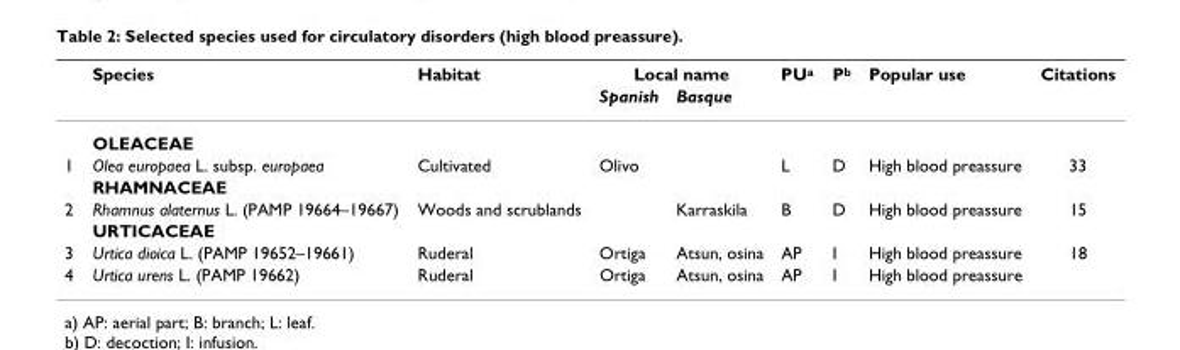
<table><thead><tr><td rowspan="2"></td><td rowspan="2">Species</td><td rowspan="2">Habitat</td><td colspan="2">Local name</td><td rowspan="2">PU<sup>a</sup></td><td rowspan="2">P<sup>b</sup></td><td rowspan="2">Popular use</td><td rowspan="2">Citations</td></tr><tr><td>Spanish</td><td>Basque</td></tr></thead><tbody><tr><td></td><td>OLEACEAE</td><td></td><td></td><td></td><td></td><td></td><td></td><td></td></tr><tr><td rowspan="2">1</td><td>Olea europaea L. subsp. europaea</td><td>Cultivated</td><td>Olivo</td><td></td><td>L</td><td>D</td><td>High blood preassure</td><td>33</td></tr><tr><td>RHAMNACEAE</td><td></td><td></td><td></td><td></td><td></td><td></td><td></td></tr><tr><td rowspan="2">2</td><td>Rhamnus alaternus L. (PAMP 19664–19667)</td><td>Woods and scrublands</td><td></td><td>Karraskila</td><td>B</td><td>D</td><td>High blood preassure</td><td>15</td></tr><tr><td>URTICACEAE</td><td></td><td></td><td></td><td></td><td></td><td></td><td></td></tr><tr><td>3</td><td>Urtica dioica L. (PAMP 19652–19661)</td><td>Ruderal</td><td>Ortiga</td><td>Atsun, osina</td><td>AP</td><td>I</td><td>High blood preassure</td><td>18</td></tr><tr><td>4</td><td>Urtica urens L. (PAMP 19662)</td><td>Ruderal</td><td>Ortiga</td><td>Atsun, osina</td><td>AP</td><td>I</td><td>High blood preassure</td><td></td></tr></tbody></table>